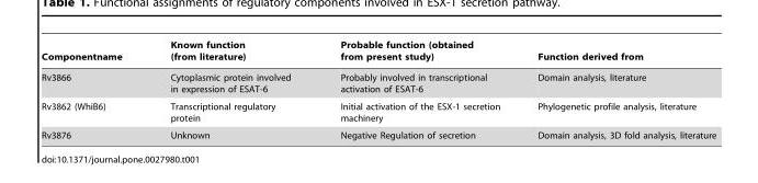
<table><thead><tr><td>Componentname</td><td>Known function (from literature)</td><td>Probable function (obtained from present study)</td><td>Function derived from</td></tr></thead><tbody><tr><td>Rv3866</td><td>Cytoplasmic protein involved in expression of ESAT-6</td><td>Probably involved in transcriptional activation of ESAT-6</td><td>Domain analysis, literature</td></tr><tr><td>Rv3862 (WhiB6)</td><td>Transcriptional regulatory protein</td><td>Initial activation of the ESX-1 secretion machinery</td><td>Phylogenetic profile analysis, literature</td></tr><tr><td>Rv3876</td><td>Unknown</td><td>Negative Regulation of secretion</td><td>Domain analysis, 3D fold analysis, literature</td></tr></tbody></table>